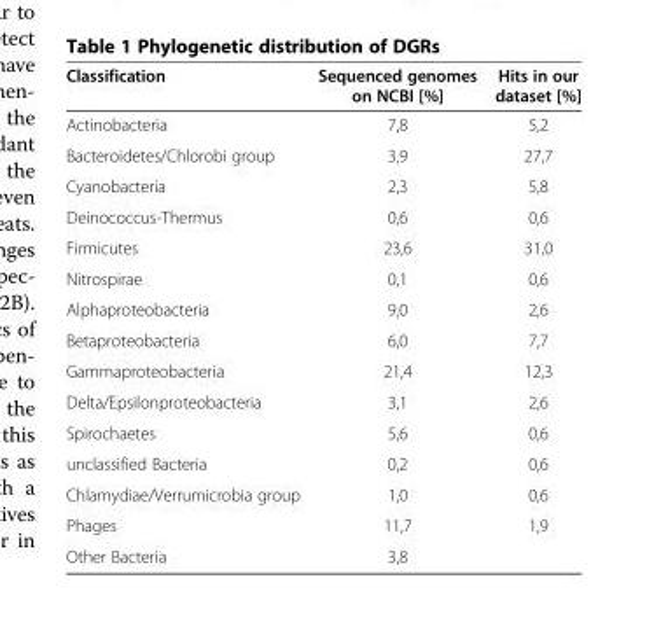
<table><thead><tr><td>Classification</td><td>Sequenced genomes on NCBI [%]</td><td>Hits in our dataset [%]</td></tr></thead><tbody><tr><td>Actinobacteria</td><td>7,8</td><td>5,2</td></tr><tr><td>Bacteroidetes/Chlorobi group</td><td>3,9</td><td>27,7</td></tr><tr><td>Cyanobacteria</td><td>2,3</td><td>5,8</td></tr><tr><td>Deinococcus-Thermus</td><td>0,6</td><td>0,6</td></tr><tr><td>Firmicutes</td><td>23,6</td><td>31,0</td></tr><tr><td>Nitrospirae</td><td>0,1</td><td>0,6</td></tr><tr><td>Alphaproteobacteria</td><td>9,0</td><td>2,6</td></tr><tr><td>Betaproteobacteria</td><td>6,0</td><td>7,7</td></tr><tr><td>Gammaproteobacteria</td><td>21,4</td><td>12,3</td></tr><tr><td>Delta/Epsilonproteobacteria</td><td>3,1</td><td>2,6</td></tr><tr><td>Spirochaetes</td><td>5,6</td><td>0,6</td></tr><tr><td>unclassified Bacteria</td><td>0,2</td><td>0,6</td></tr><tr><td>Chlamydiae/Verrumicrobia group</td><td>1,0</td><td>0,6</td></tr><tr><td>Phages</td><td>11,7</td><td>1,9</td></tr><tr><td>Other Bacteria</td><td>3,8</td><td></td></tr></tbody></table>